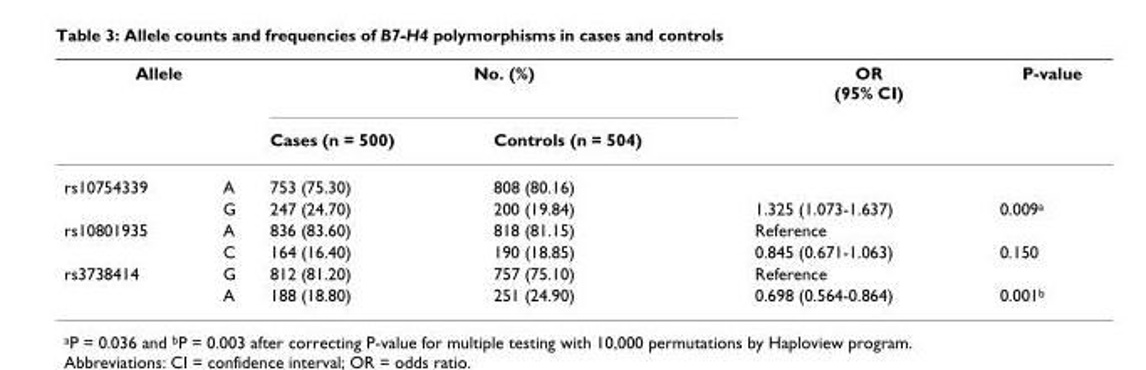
<table><thead><tr><td colspan="2">Allele</td><td colspan="2">No. (%)</td><td rowspan="2">OR (95% CI)</td><td rowspan="2">P-value</td></tr><tr><td></td><td></td><td>Cases (n = 500)</td><td>Controls (n = 504)</td></tr></thead><tbody><tr><td rowspan="2">rs10754339</td><td>A</td><td>753 (75.30)</td><td>808 (80.16)</td><td></td><td></td></tr><tr><td>G</td><td>247 (24.70)</td><td>200 (19.84)</td><td>1.325 (1.073-1.637)</td><td>0.009<sup>a</sup></td></tr><tr><td rowspan="2">rs10801935</td><td>A</td><td>836 (83.60)</td><td>818 (81.15)</td><td>Reference</td><td></td></tr><tr><td>C</td><td>164 (16.40)</td><td>190 (18.85)</td><td>0.845 (0.671-1.063)</td><td>0.150</td></tr><tr><td rowspan="2">rs3738414</td><td>G</td><td>812 (81.20)</td><td>757 (75.10)</td><td>Reference</td><td></td></tr><tr><td>A</td><td>188 (18.80)</td><td>251 (24.90)</td><td>0.698 (0.564-0.864)</td><td>0.001<sup>b</sup></td></tr></tbody></table>